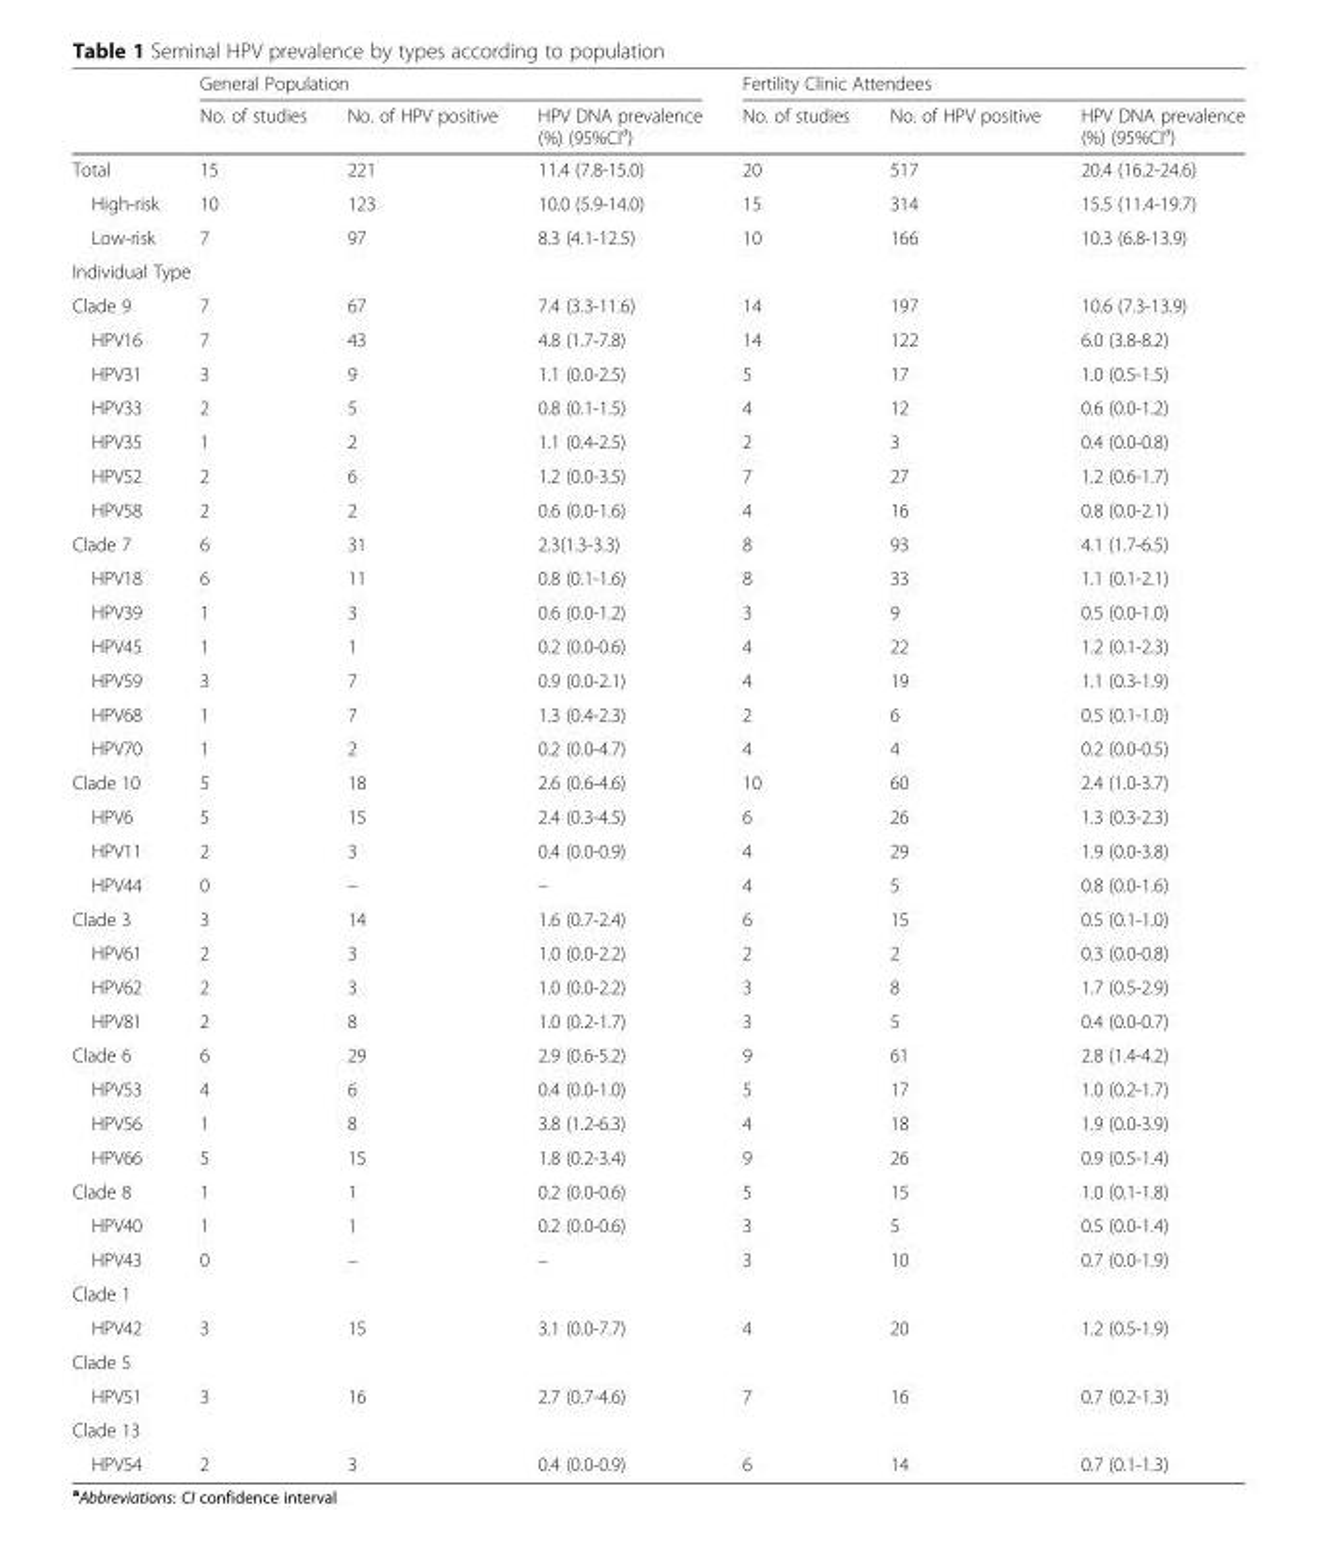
<table><thead><tr><td rowspan="2"></td><td colspan="3">General Population</td><td colspan="3">Fertility Clinic Attendees</td></tr><tr><td>No. of studies</td><td>No. of HPV positive</td><td>HPV DNA prevalence (%) (95%CI<sup>a</sup>)</td><td>No. of studies</td><td>No. of HPV positive</td><td>HPV DNA prevalence (%) (95%CI<sup>a</sup>)</td></tr></thead><tbody><tr><td>Total</td><td>15</td><td>221</td><td>11.4 (7.8-15.0)</td><td>20</td><td>517</td><td>20.4 (16.2-24.6)</td></tr><tr><td>High-risk</td><td>10</td><td>123</td><td>10.0 (5.9-14.0)</td><td>15</td><td>314</td><td>15.5 (11.4-19.7)</td></tr><tr><td>Low-risk</td><td>7</td><td>97</td><td>8.3 (4.1-12.5)</td><td>10</td><td>166</td><td>10.3 (6.8-13.9)</td></tr><tr><td colspan="7">Individual Type</td></tr><tr><td>Clade 9</td><td>7</td><td>67</td><td>7.4 (3.3-11.6)</td><td>14</td><td>197</td><td>10.6 (7.3-13.9)</td></tr><tr><td>HPV16</td><td>7</td><td>43</td><td>4.8 (1.7-7.8)</td><td>14</td><td>122</td><td>6.0 (3.8-8.2)</td></tr><tr><td>HPV31</td><td>3</td><td>9</td><td>1.1 (0.0-2.5)</td><td>5</td><td>17</td><td>1.0 (0.5-1.5)</td></tr><tr><td>HPV33</td><td>2</td><td>5</td><td>0.8 (0.1-1.5)</td><td>4</td><td>12</td><td>0.6 (0.0-1.2)</td></tr><tr><td>HPV35</td><td>1</td><td>2</td><td>1.1 (0.4-2.5)</td><td>2</td><td>3</td><td>0.4 (0.0-0.8)</td></tr><tr><td>HPV52</td><td>2</td><td>6</td><td>1.2 (0.0-3.5)</td><td>7</td><td>27</td><td>1.2 (0.6-1.7)</td></tr><tr><td>HPV58</td><td>2</td><td>2</td><td>0.6 (0.0-1.6)</td><td>4</td><td>16</td><td>0.8 (0.0-2.1)</td></tr><tr><td>Clade 7</td><td>6</td><td>31</td><td>2.3(1.3-3.3)</td><td>8</td><td>93</td><td>4.1 (1.7-6.5)</td></tr><tr><td>HPV18</td><td>6</td><td>11</td><td>0.8 (0.1-1.6)</td><td>8</td><td>33</td><td>1.1 (0.1-2.1)</td></tr><tr><td>HPV39</td><td>1</td><td>3</td><td>0.6 (0.0-1.2)</td><td>3</td><td>9</td><td>0.5 (0.0-1.0)</td></tr><tr><td>HPV45</td><td>1</td><td>1</td><td>0.2 (0.0-0.6)</td><td>4</td><td>22</td><td>1.2 (0.1-2.3)</td></tr><tr><td>HPV59</td><td>3</td><td>7</td><td>0.9 (0.0-2.1)</td><td>4</td><td>19</td><td>1.1 (0.3-1.9)</td></tr><tr><td>HPV68</td><td>1</td><td>7</td><td>1.3 (0.4-2.3)</td><td>2</td><td>6</td><td>0.5 (0.1-1.0)</td></tr><tr><td>HPV70</td><td>1</td><td>2</td><td>0.2 (0.0-4.7)</td><td>4</td><td>4</td><td>0.2 (0.0-0.5)</td></tr><tr><td>Clade 10</td><td>5</td><td>18</td><td>2.6 (0.6-4.6)</td><td>10</td><td>60</td><td>2.4 (1.0-3.7)</td></tr><tr><td>HPV6</td><td>5</td><td>15</td><td>2.4 (0.3-4.5)</td><td>6</td><td>26</td><td>1.3 (0.3-2.3)</td></tr><tr><td>HPV11</td><td>2</td><td>3</td><td>0.4 (0.0-0.9)</td><td>4</td><td>29</td><td>1.9 (0.0-3.8)</td></tr><tr><td>HPV44</td><td>0</td><td>–</td><td>–</td><td>4</td><td>5</td><td>0.8 (0.0-1.6)</td></tr><tr><td>Clade 3</td><td>3</td><td>14</td><td>1.6 (0.7-2.4)</td><td>6</td><td>15</td><td>0.5 (0.1-1.0)</td></tr><tr><td>HPV61</td><td>2</td><td>3</td><td>1.0 (0.0-2.2)</td><td>2</td><td>2</td><td>0.3 (0.0-0.8)</td></tr><tr><td>HPV62</td><td>2</td><td>3</td><td>1.0 (0.0-2.2)</td><td>3</td><td>8</td><td>1.7 (0.5-2.9)</td></tr><tr><td>HPV81</td><td>2</td><td>8</td><td>1.0 (0.2-1.7)</td><td>3</td><td>5</td><td>0.4 (0.0-0.7)</td></tr><tr><td>Clade 6</td><td>6</td><td>29</td><td>2.9 (0.6-5.2)</td><td>9</td><td>61</td><td>2.8 (1.4-4.2)</td></tr><tr><td>HPV53</td><td>4</td><td>6</td><td>0.4 (0.0-1.0)</td><td>5</td><td>17</td><td>1.0 (0.2-1.7)</td></tr><tr><td>HPV56</td><td>1</td><td>8</td><td>3.8 (1.2-6.3)</td><td>4</td><td>18</td><td>1.9 (0.0-3.9)</td></tr><tr><td>HPV66</td><td>5</td><td>15</td><td>1.8 (0.2-3.4)</td><td>9</td><td>26</td><td>0.9 (0.5-1.4)</td></tr><tr><td>Clade 8</td><td>1</td><td>1</td><td>0.2 (0.0-0.6)</td><td>5</td><td>15</td><td>1.0 (0.1-1.8)</td></tr><tr><td>HPV40</td><td>1</td><td>1</td><td>0.2 (0.0-0.6)</td><td>3</td><td>5</td><td>0.5 (0.0-1.4)</td></tr><tr><td>HPV43</td><td>0</td><td>–</td><td>–</td><td>3</td><td>10</td><td>0.7 (0.0-1.9)</td></tr><tr><td colspan="7">Clade 1</td></tr><tr><td>HPV42</td><td>3</td><td>15</td><td>3.1 (0.0-7.7)</td><td>4</td><td>20</td><td>1.2 (0.5-1.9)</td></tr><tr><td colspan="7">Clade 5</td></tr><tr><td>HPV51</td><td>3</td><td>16</td><td>2.7 (0.7-4.6)</td><td>7</td><td>16</td><td>0.7 (0.2-1.3)</td></tr><tr><td colspan="7">Clade 13</td></tr><tr><td>HPV54</td><td>2</td><td>3</td><td>0.4 (0.0-0.9)</td><td>6</td><td>14</td><td>0.7 (0.1-1.3)</td></tr></tbody></table>